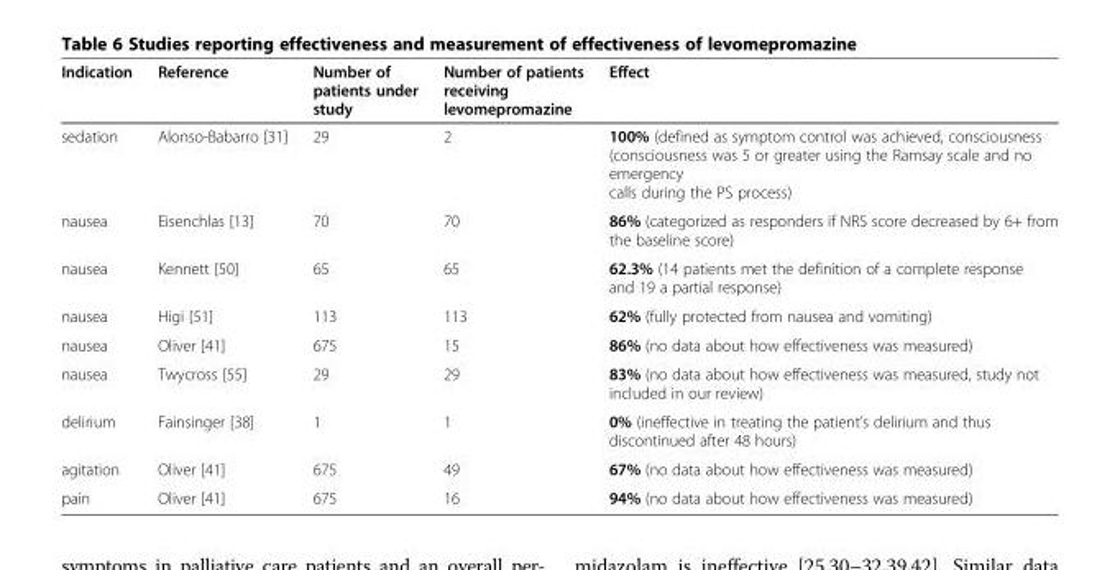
<table><thead><tr><td>Indication</td><td>Reference</td><td>Number of patients under study</td><td>Number of patients receiving levomepromazine</td><td>Effect</td></tr></thead><tbody><tr><td>sedation</td><td>Alonso-Babarro [31]</td><td>29</td><td>2</td><td>100% (defined as symptom control was achieved, consciousness (consciousness was 5 or greater using the Ramsay scale and no emergency calls during the PS process)</td></tr><tr><td>nausea</td><td>Eisenchlas [13]</td><td>70</td><td>70</td><td>86% (categorized as responders if NRS score decreased by 6+ from the baseline score)</td></tr><tr><td>nausea</td><td>Kennett [50]</td><td>65</td><td>65</td><td>62.3% (14 patients met the definition of a complete response and 19 a partial response)</td></tr><tr><td>nausea</td><td>Higi [51]</td><td>113</td><td>113</td><td>62% (fully protected from nausea and vomiting)</td></tr><tr><td>nausea</td><td>Oliver [41]</td><td>675</td><td>15</td><td>86% (no data about how effectiveness was measured)</td></tr><tr><td>nausea</td><td>Twycross [55]</td><td>29</td><td>29</td><td>83% (no data about how effectiveness was measured, study not included in our review)</td></tr><tr><td>delirium</td><td>Fainsinger [38]</td><td>1</td><td>1</td><td>0% (ineffective in treating the patient’s delirium and thus discontinued after 48 hours)</td></tr><tr><td>agitation</td><td>Oliver [41]</td><td>675</td><td>49</td><td>67% (no data about how effectiveness was measured)</td></tr><tr><td>pain</td><td>Oliver [41]</td><td>675</td><td>16</td><td>94% (no data about how effectiveness was measured)</td></tr></tbody></table>